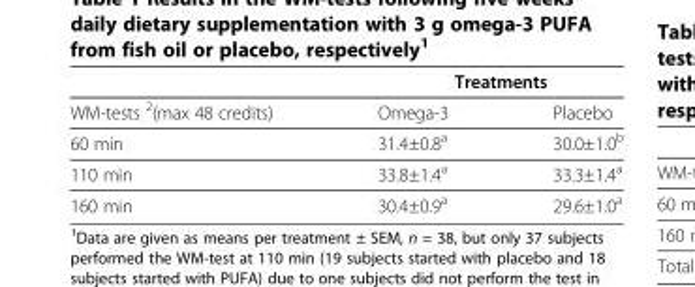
<table><thead><tr><td colspan="3">Treatments</td></tr><tr><td>WM-tests <sup>2</sup>(max 48 credits)</td><td>Omega-3</td><td>Placebo</td></tr></thead><tbody><tr><td>60 min</td><td>31.4±0.8<sup>a</sup></td><td>30.0±1.0<sup>b</sup></td></tr><tr><td>110 min</td><td>33.8±1.4<sup>a</sup></td><td>33.3±1.4<sup>a</sup></td></tr><tr><td>160 min</td><td>30.4±0.9<sup>a</sup></td><td>29.6±1.0<sup>a</sup></td></tr></tbody></table>